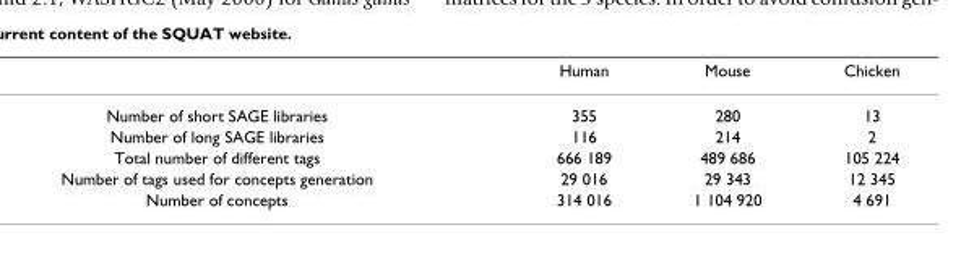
<table><thead><tr><td></td><td>Human</td><td>Mouse</td><td>Chicken</td></tr></thead><tbody><tr><td>Number of short SAGE libraries</td><td>355</td><td>280</td><td>13</td></tr><tr><td>Number of long SAGE libraries</td><td>116</td><td>214</td><td>2</td></tr><tr><td>Total number of different tags</td><td>666 189</td><td>489 686</td><td>105 224</td></tr><tr><td>Number of tags used for concepts generation</td><td>29 016</td><td>29 343</td><td>12 345</td></tr><tr><td>Number of concepts</td><td>314 016</td><td>1 104 920</td><td>4 691</td></tr></tbody></table>